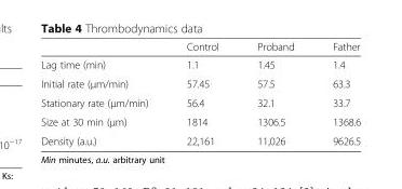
<table><thead><tr><td></td><td>Control</td><td>Proband</td><td>Father</td></tr></thead><tbody><tr><td>Lag time (min)</td><td>1.1</td><td>1.45</td><td>1.4</td></tr><tr><td>Initial rate (μm/min)</td><td>57.45</td><td>57.5</td><td>63.3</td></tr><tr><td>Stationary rate (μm/min)</td><td>56.4</td><td>32.1</td><td>33.7</td></tr><tr><td>Size at 30 min (μm)</td><td>1814</td><td>1306.5</td><td>1368.6</td></tr><tr><td>Density (a.u.)</td><td>22,161</td><td>11,026</td><td>9626.5</td></tr></tbody></table>